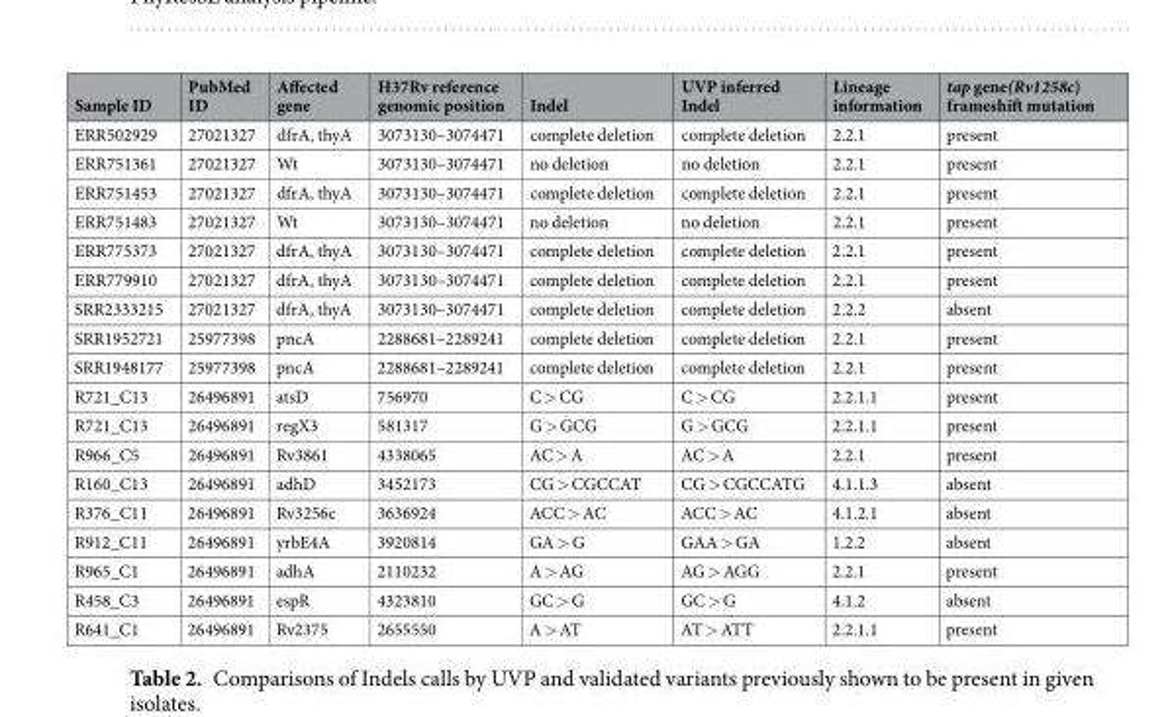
<table><thead><tr><td>Sample ID</td><td>PubMed ID</td><td>Affected gene</td><td>H37Rv reference genomic position</td><td>Indel</td><td>UVP inferred Indel</td><td>Lineage information</td><td>tap gene(Rv1258c) frameshift mutation</td></tr></thead><tbody><tr><td>ERR502929</td><td>27021327</td><td>dfrA, thyA</td><td>3073130–3074471</td><td>complete deletion</td><td>complete deletion</td><td>2.2.1</td><td>present</td></tr><tr><td>ERR751361</td><td>27021327</td><td>Wt</td><td>3073130–3074471</td><td>no deletion</td><td>no deletion</td><td>2.2.1</td><td>present</td></tr><tr><td>ERR751453</td><td>27021327</td><td>dfrA, thyA</td><td>3073130–3074471</td><td>complete deletion</td><td>complete deletion</td><td>2.2.1</td><td>present</td></tr><tr><td>ERR751483</td><td>27021327</td><td>Wt</td><td>3073130–3074471</td><td>no deletion</td><td>no deletion</td><td>2.2.1</td><td>present</td></tr><tr><td>ERR775373</td><td>27021327</td><td>dfrA, thyA</td><td>3073130–3074471</td><td>complete deletion</td><td>complete deletion</td><td>2.2.1</td><td>present</td></tr><tr><td>ERR779910</td><td>27021327</td><td>dfrA, thyA</td><td>3073130–3074471</td><td>complete deletion</td><td>complete deletion</td><td>2.2.1</td><td>present</td></tr><tr><td>SRR2333215</td><td>27021327</td><td>dfrA, thyA</td><td>3073130–3074471</td><td>complete deletion</td><td>complete deletion</td><td>2.2.2</td><td>absent</td></tr><tr><td>SRR1952721</td><td>25977398</td><td>pncA</td><td>2288681–2289241</td><td>complete deletion</td><td>complete deletion</td><td>2.2.1</td><td>present</td></tr><tr><td>SRR1948177</td><td>25977398</td><td>pncA</td><td>2288681–2289241</td><td>complete deletion</td><td>complete deletion</td><td>2.2.1</td><td>present</td></tr><tr><td>R721_C13</td><td>26496891</td><td>atsD</td><td>756970</td><td>C &gt; CG</td><td>C &gt; CG</td><td>2.2.1.1</td><td>present</td></tr><tr><td>R721_C13</td><td>26496891</td><td>regX3</td><td>581317</td><td>G &gt; GCG</td><td>G &gt; GCG</td><td>2.2.1.1</td><td>present</td></tr><tr><td>R966_C5</td><td>26496891</td><td>Rv3861</td><td>4338065</td><td>AC &gt; A</td><td>AC &gt; A</td><td>2.2.1</td><td>present</td></tr><tr><td>R160_C13</td><td>26496891</td><td>adhD</td><td>3452173</td><td>CG &gt; CGCCAT</td><td>CG &gt; CGCCATG</td><td>4.1.1.3</td><td>absent</td></tr><tr><td>R376_C11</td><td>26496891</td><td>Rv3256c</td><td>3636924</td><td>ACC &gt; AC</td><td>ACC &gt; AC</td><td>4.1.2.1</td><td>absent</td></tr><tr><td>R912_C11</td><td>26496891</td><td>yrbE4A</td><td>3920814</td><td>GA &gt; G</td><td>GAA &gt; GA</td><td>1.2.2</td><td>absent</td></tr><tr><td>R965_C1</td><td>26496891</td><td>adhA</td><td>2110232</td><td>A &gt; AG</td><td>AG &gt; AGG</td><td>2.2.1</td><td>present</td></tr><tr><td>R458_C3</td><td>26496891</td><td>espR</td><td>4323810</td><td>GC &gt; G</td><td>GC &gt; G</td><td>4.1.2</td><td>absent</td></tr><tr><td>R641_C1</td><td>26496891</td><td>Rv2375</td><td>2655550</td><td>A &gt; AT</td><td>AT &gt; ATT</td><td>2.2.1.1</td><td>present</td></tr></tbody></table>